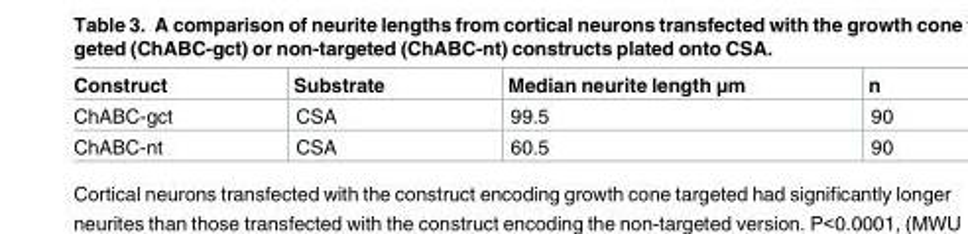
<table><thead><tr><td>Construct</td><td>Substrate</td><td>Median neurite length μm</td><td>n</td></tr></thead><tbody><tr><td>ChABC-gct</td><td>CSA</td><td>99.5</td><td>90</td></tr><tr><td>ChABC-nt</td><td>CSA</td><td>60.5</td><td>90</td></tr></tbody></table>